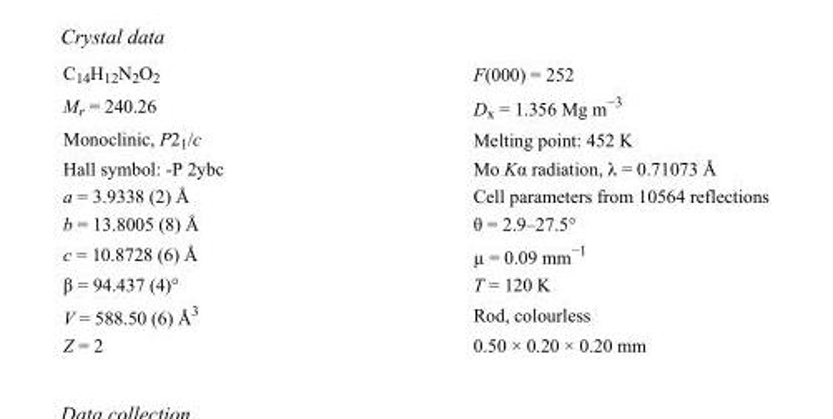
<table><tbody><tr><td>C<sub>14</sub>H<sub>12</sub>N<sub>2</sub>O<sub>2</sub></td><td>F(000) = 252</td></tr><tr><td>M<sub>r</sub> = 240.26</td><td>D<sub>x</sub> = 1.356 Mg m<sup>−3</sup></td></tr><tr><td>Monoclinic, P2<sub>1</sub>/c</td><td>Melting point: 452 K</td></tr><tr><td>Hall symbol: -P 2ybc</td><td>Mo Kα radiation, λ = 0.71073 Å</td></tr><tr><td>a = 3.9338 (2) Å</td><td>Cell parameters from 10564 reflections</td></tr><tr><td>b = 13.8005 (8) Å</td><td>θ = 2.9–27.5°</td></tr><tr><td>c = 10.8728 (6) Å</td><td>µ = 0.09 mm<sup>−1</sup></td></tr><tr><td>β = 94.437 (4)°</td><td>T = 120 K</td></tr><tr><td>V = 588.50 (6) Å<sup>3</sup></td><td>Rod, colourless</td></tr><tr><td>Z = 2</td><td>0.50 × 0.20 × 0.20 mm</td></tr></tbody></table>